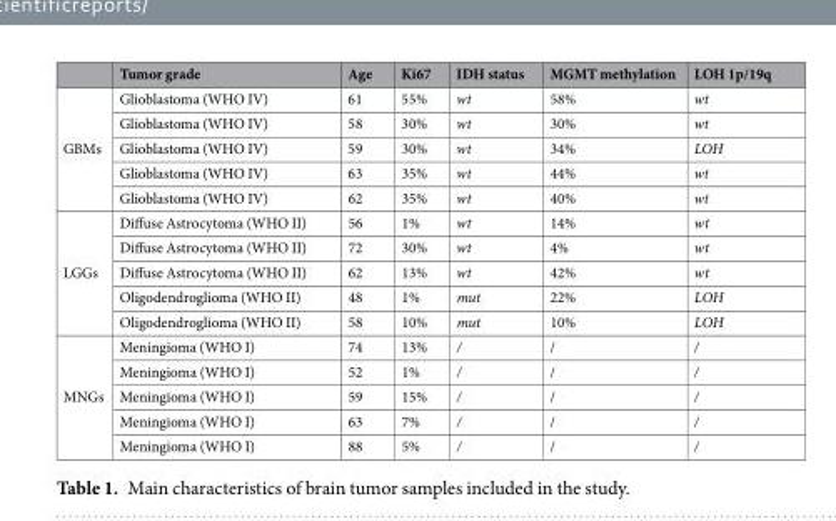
<table><thead><tr><td></td><td>Tumor grade</td><td>Age</td><td>Ki67</td><td>IDH status</td><td>MGMT methylation</td><td>LOH 1p/19q</td></tr></thead><tbody><tr><td rowspan="5">GBMs</td><td>Glioblastoma (WHO IV)</td><td>61</td><td>55%</td><td>wt</td><td>58%</td><td>wt</td></tr><tr><td>Glioblastoma (WHO IV)</td><td>58</td><td>30%</td><td>wt</td><td>30%</td><td>wt</td></tr><tr><td>Glioblastoma (WHO IV)</td><td>59</td><td>30%</td><td>wt</td><td>34%</td><td>LOH</td></tr><tr><td>Glioblastoma (WHO IV)</td><td>63</td><td>35%</td><td>wt</td><td>44%</td><td>wt</td></tr><tr><td>Glioblastoma (WHO IV)</td><td>62</td><td>35%</td><td>wt</td><td>40%</td><td>wt</td></tr><tr><td rowspan="5">LGGs</td><td>Diffuse Astrocytoma (WHO II)</td><td>56</td><td>1%</td><td>wt</td><td>14%</td><td>wt</td></tr><tr><td>Diffuse Astrocytoma (WHO II)</td><td>72</td><td>30%</td><td>wt</td><td>4%</td><td>wt</td></tr><tr><td>Diffuse Astrocytoma (WHO II)</td><td>62</td><td>13%</td><td>wt</td><td>42%</td><td>wt</td></tr><tr><td>Oligodendroglioma (WHO II)</td><td>48</td><td>1%</td><td>mut</td><td>22%</td><td>LOH</td></tr><tr><td>Oligodendroglioma (WHO II)</td><td>58</td><td>10%</td><td>mut</td><td>10%</td><td>LOH</td></tr><tr><td rowspan="5">MNGs</td><td>Meningioma (WHO I)</td><td>74</td><td>13%</td><td>/</td><td>/</td><td>/</td></tr><tr><td>Meningioma (WHO I)</td><td>52</td><td>1%</td><td>/</td><td>/</td><td>/</td></tr><tr><td>Meningioma (WHO I)</td><td>59</td><td>15%</td><td>/</td><td>/</td><td>/</td></tr><tr><td>Meningioma (WHO I)</td><td>63</td><td>7%</td><td>/</td><td>/</td><td>/</td></tr><tr><td>Meningioma (WHO I)</td><td>88</td><td>5%</td><td>/</td><td>/</td><td>/</td></tr></tbody></table>